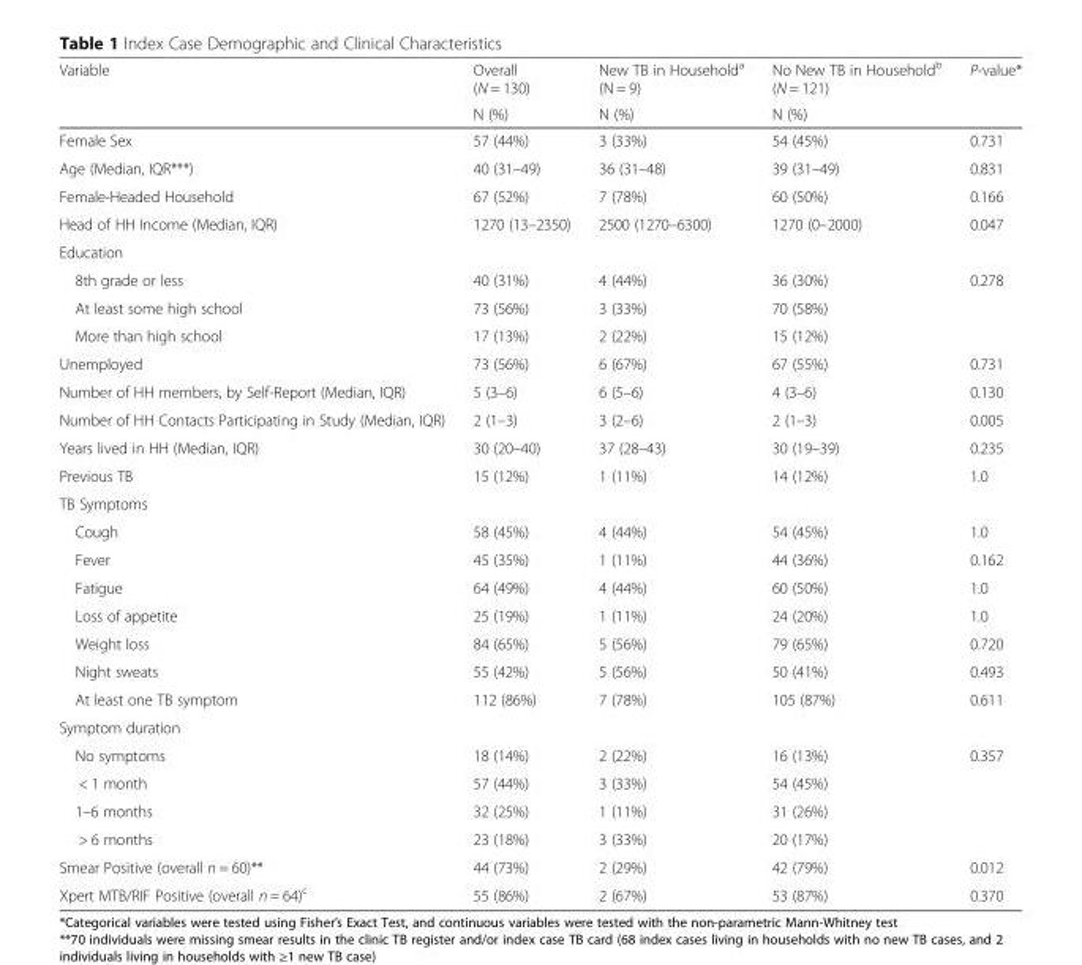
<table><thead><tr><td rowspan="2">Variable</td><td rowspan="2">Overall (N = 130) N (%)</td><td rowspan="2">New TB in Household<sup>a</sup> (N = 9) N (%)</td><td rowspan="2">No New TB in Household<sup>b</sup> (N = 121) N (%)</td><td rowspan="2">P-value*</td></tr><tr></tr></thead><tbody><tr><td>Female Sex</td><td>57 (44%)</td><td>3 (33%)</td><td>54 (45%)</td><td>0.731</td></tr><tr><td>Age (Median, IQR***)</td><td>40 (31–49)</td><td>36 (31–48)</td><td>39 (31–49)</td><td>0.831</td></tr><tr><td>Female-Headed Household</td><td>67 (52%)</td><td>7 (78%)</td><td>60 (50%)</td><td>0.166</td></tr><tr><td>Head of HH Income (Median, IQR)</td><td>1270 (13–2350)</td><td>2500 (1270–6300)</td><td>1270 (0–2000)</td><td>0.047</td></tr><tr><td colspan="5">Education</td></tr><tr><td>8th grade or less</td><td>40 (31%)</td><td>4 (44%)</td><td>36 (30%)</td><td rowspan="3">0.278</td></tr><tr><td>At least some high school</td><td>73 (56%)</td><td>3 (33%)</td><td>70 (58%)</td></tr><tr><td>More than high school</td><td>17 (13%)</td><td>2 (22%)</td><td>15 (12%)</td></tr><tr><td>Unemployed</td><td>73 (56%)</td><td>6 (67%)</td><td>67 (55%)</td><td>0.731</td></tr><tr><td>Number of HH members, by Self-Report (Median, IQR)</td><td>5 (3–6)</td><td>6 (5–6)</td><td>4 (3–6)</td><td>0.130</td></tr><tr><td>Number of HH Contacts Participating in Study (Median, IQR)</td><td>2 (1–3)</td><td>3 (2–6)</td><td>2 (1–3)</td><td>0.005</td></tr><tr><td>Years lived in HH (Median, IQR)</td><td>30 (20–40)</td><td>37 (28–43)</td><td>30 (19–39)</td><td>0.235</td></tr><tr><td>Previous TB</td><td>15 (12%)</td><td>1 (11%)</td><td>14 (12%)</td><td>1.0</td></tr><tr><td colspan="5">TB Symptoms</td></tr><tr><td>Cough</td><td>58 (45%)</td><td>4 (44%)</td><td>54 (45%)</td><td>1.0</td></tr><tr><td>Fever</td><td>45 (35%)</td><td>1 (11%)</td><td>44 (36%)</td><td>0.162</td></tr><tr><td>Fatigue</td><td>64 (49%)</td><td>4 (44%)</td><td>60 (50%)</td><td>1.0</td></tr><tr><td>Loss of appetite</td><td>25 (19%)</td><td>1 (11%)</td><td>24 (20%)</td><td>1.0</td></tr><tr><td>Weight loss</td><td>84 (65%)</td><td>5 (56%)</td><td>79 (65%)</td><td>0.720</td></tr><tr><td>Night sweats</td><td>55 (42%)</td><td>5 (56%)</td><td>50 (41%)</td><td>0.493</td></tr><tr><td>At least one TB symptom</td><td>112 (86%)</td><td>7 (78%)</td><td>105 (87%)</td><td>0.611</td></tr><tr><td colspan="5">Symptom duration</td></tr><tr><td>No symptoms</td><td>18 (14%)</td><td>2 (22%)</td><td>16 (13%)</td><td rowspan="4">0.357</td></tr><tr><td>&lt; 1 month</td><td>57 (44%)</td><td>3 (33%)</td><td>54 (45%)</td></tr><tr><td>1–6 months</td><td>32 (25%)</td><td>1 (11%)</td><td>31 (26%)</td></tr><tr><td>&gt; 6 months</td><td>23 (18%)</td><td>3 (33%)</td><td>20 (17%)</td></tr><tr><td>Smear Positive (overall n = 60)**</td><td>44 (73%)</td><td>2 (29%)</td><td>42 (79%)</td><td>0.012</td></tr><tr><td>Xpert MTB/RIF Positive (overall n = 64)<sup>c</sup></td><td>55 (86%)</td><td>2 (67%)</td><td>53 (87%)</td><td>0.370</td></tr></tbody></table>